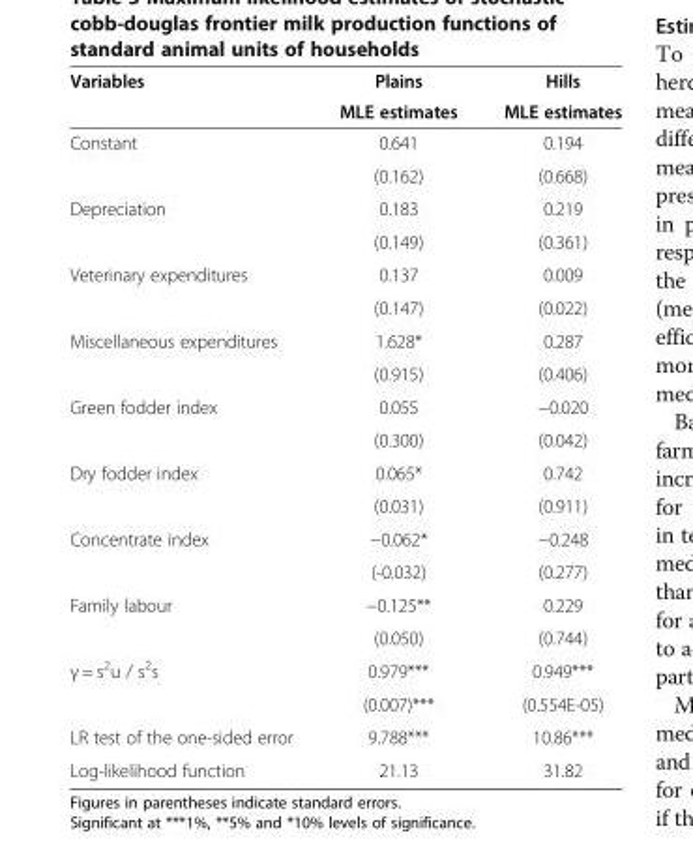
<table><thead><tr><td rowspan="2">Variables</td><td rowspan="2">Plains MLE estimates</td><td rowspan="2">Hills MLE estimates</td></tr><tr></tr></thead><tbody><tr><td rowspan="2">Constant</td><td>0.641</td><td>0.194</td></tr><tr><td>(0.162)</td><td>(0.668)</td></tr><tr><td rowspan="2">Depreciation</td><td>0.183</td><td>0.219</td></tr><tr><td>(0.149)</td><td>(0.361)</td></tr><tr><td rowspan="2">Veterinary expenditures</td><td>0.137</td><td>0.009</td></tr><tr><td>(0.147)</td><td>(0.022)</td></tr><tr><td rowspan="2">Miscellaneous expenditures</td><td>1.628*</td><td>0.287</td></tr><tr><td>(0.915)</td><td>(0.406)</td></tr><tr><td rowspan="2">Green fodder index</td><td>0.055</td><td>−0.020</td></tr><tr><td>(0.300)</td><td>(0.042)</td></tr><tr><td rowspan="2">Dry fodder index</td><td>0.065*</td><td>0.742</td></tr><tr><td>(0.031)</td><td>(0.911)</td></tr><tr><td rowspan="2">Concentrate index</td><td>−0.062*</td><td>−0.248</td></tr><tr><td>(-0.032)</td><td>(0.277)</td></tr><tr><td rowspan="2">Family labour</td><td>−0.125**</td><td>0.229</td></tr><tr><td>(0.050)</td><td>(0.744)</td></tr><tr><td rowspan="2">γ = s<sup>2</sup>u / s<sup>2</sup>s</td><td>0.979***</td><td>0.949***</td></tr><tr><td>(0.007)***</td><td>(0.554E-05)</td></tr><tr><td>LR test of the one-sided error</td><td>9.788***</td><td>10.86***</td></tr><tr><td>Log-likelihood function</td><td>21.13</td><td>31.82</td></tr></tbody></table>